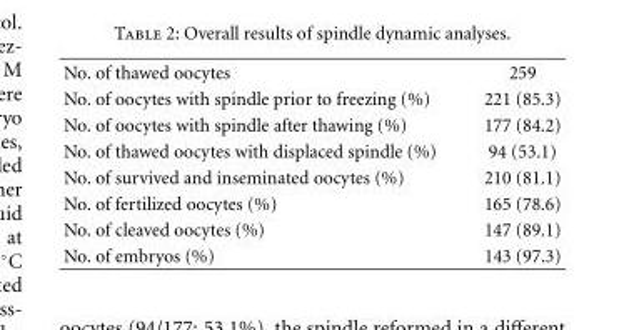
<table><tbody><tr><td>No. of thawed oocytes</td><td>259</td></tr><tr><td>No. of oocytes with spindle prior to freezing (%)</td><td>221 (85.3)</td></tr><tr><td>No. of oocytes with spindle after thawing (%)</td><td>177 (84.2)</td></tr><tr><td>No. of thawed oocytes with displaced spindle (%)</td><td>94 (53.1)</td></tr><tr><td>No. of survived and inseminated oocytes (%)</td><td>210 (81.1)</td></tr><tr><td>No. of fertilized oocytes (%)</td><td>165 (78.6)</td></tr><tr><td>No. of cleaved oocytes (%)</td><td>147 (89.1)</td></tr><tr><td>No. of embryos (%)</td><td>143 (97.3)</td></tr></tbody></table>